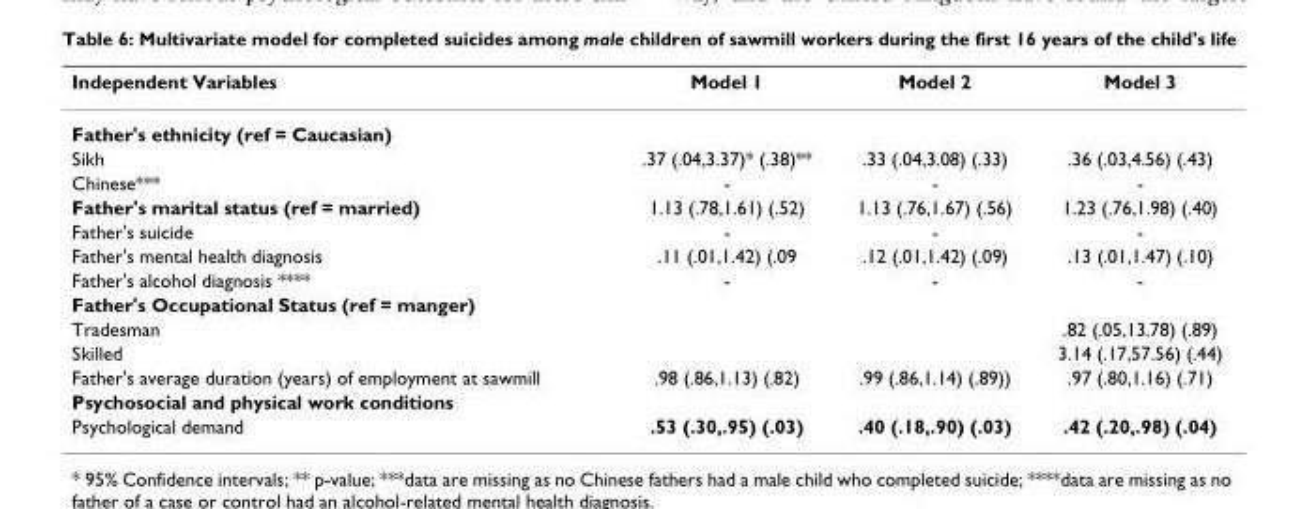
<table><thead><tr><td>Independent Variables</td><td>Model 1</td><td>Model 2</td><td>Model 3</td></tr></thead><tbody><tr><td colspan="4">Father&#x27;s ethnicity (ref = Caucasian)</td></tr><tr><td>Sikh</td><td>.37 (.04,3.37)* (.38)**</td><td>.33 (.04,3.08) (.33)</td><td>.36 (.03,4.56) (.43)</td></tr><tr><td>Chinese***</td><td>-</td><td>-</td><td>-</td></tr><tr><td>Father&#x27;s marital status (ref = married)</td><td>1.13 (.78,1.61) (.52)</td><td>1.13 (.76,1.67) (.56)</td><td>1.23 (.76,1.98) (.40)</td></tr><tr><td>Father&#x27;s suicide</td><td>-</td><td>-</td><td>-</td></tr><tr><td>Father&#x27;s mental health diagnosis</td><td>.11 (.01,1.42) (.09</td><td>.12 (.01,1.42) (.09)</td><td>.13 (.01,1.47) (.10)</td></tr><tr><td>Father&#x27;s alcohol diagnosis ****</td><td>-</td><td>-</td><td>-</td></tr><tr><td colspan="4">Father&#x27;s Occupational Status (ref = manger)</td></tr><tr><td>Tradesman</td><td></td><td></td><td>.82 (.05,13.78) (.89)</td></tr><tr><td>Skilled</td><td></td><td></td><td>3.14 (.17,57.56) (.44)</td></tr><tr><td>Father&#x27;s average duration (years) of employment at sawmill</td><td>.98 (.86,1.13) (.82)</td><td>.99 (.86,1.14) (.89))</td><td>.97 (.80,1.16) (.71)</td></tr><tr><td colspan="4">Psychosocial and physical work conditions</td></tr><tr><td>Psychological demand</td><td>.53 (.30,.95) (.03)</td><td>.40 (.18,.90) (.03)</td><td>.42 (.20,.98) (.04)</td></tr></tbody></table>